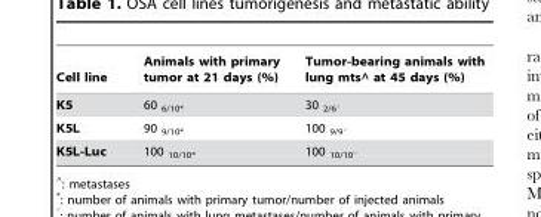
<table><thead><tr><td>Cell line</td><td>Animals with primary tumor at 21 days (%)</td><td>Tumor-bearing animals with lung mts^ at 45 days (%)</td></tr></thead><tbody><tr><td>K5</td><td>60 <sub>6/10</sub>*</td><td>30 <sub>2/6</sub>°</td></tr><tr><td>K5L</td><td>90 <sub>9/10</sub>*</td><td>100 <sub>9/9</sub>°</td></tr><tr><td>K5L-Luc</td><td>100 <sub>10/10</sub>*</td><td>100 <sub>10/10</sub>°</td></tr></tbody></table>